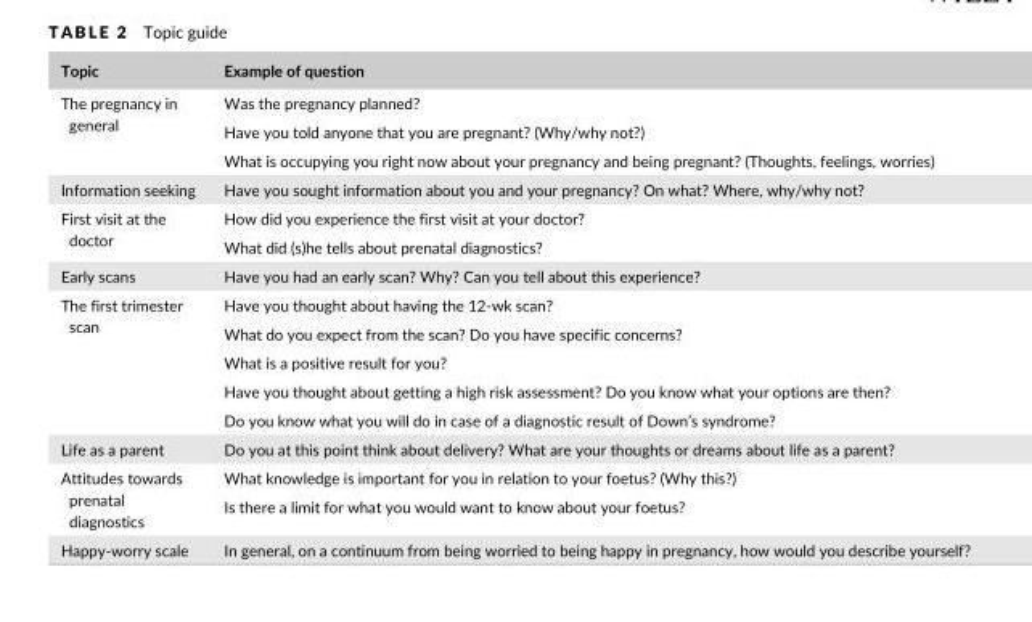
<table><thead><tr><td>Topic</td><td>Example of question</td></tr></thead><tbody><tr><td rowspan="3">The pregnancy in general</td><td>Was the pregnancy planned?</td></tr><tr><td>Have you told anyone that you are pregnant? (Why/why not?)</td></tr><tr><td>What is occupying you right now about your pregnancy and being pregnant? (Thoughts, feelings, worries)</td></tr><tr><td>Information seeking</td><td>Have you sought information about you and your pregnancy? On what? Where, why/why not?</td></tr><tr><td rowspan="2">First visit at the doctor</td><td>How did you experience the first visit at your doctor?</td></tr><tr><td>What did (s)he tells about prenatal diagnostics?</td></tr><tr><td>Early scans</td><td>Have you had an early scan? Why? Can you tell about this experience?</td></tr><tr><td rowspan="5">The first trimester scan</td><td>Have you thought about having the 12- wk scan?</td></tr><tr><td>What do you expect from the scan? Do you have specific concerns?</td></tr><tr><td>What is a positive result for you?</td></tr><tr><td>Have you thought about getting a high risk assessment? Do you know what your options are then?</td></tr><tr><td>Do you know what you will do in case of a diagnostic result of Down’s syndrome?</td></tr><tr><td>Life as a parent</td><td>Do you at this point think about delivery? What are your thoughts or dreams about life as a parent?</td></tr><tr><td rowspan="2">Attitudes towards prenatal diagnostics</td><td>What knowledge is important for you in relation to your foetus? (Why this?)</td></tr><tr><td>Is there a limit for what you would want to know about your foetus?</td></tr><tr><td>Happy- worry scale</td><td>In general, on a continuum from being worried to being happy in pregnancy, how would you describe yourself?</td></tr></tbody></table>